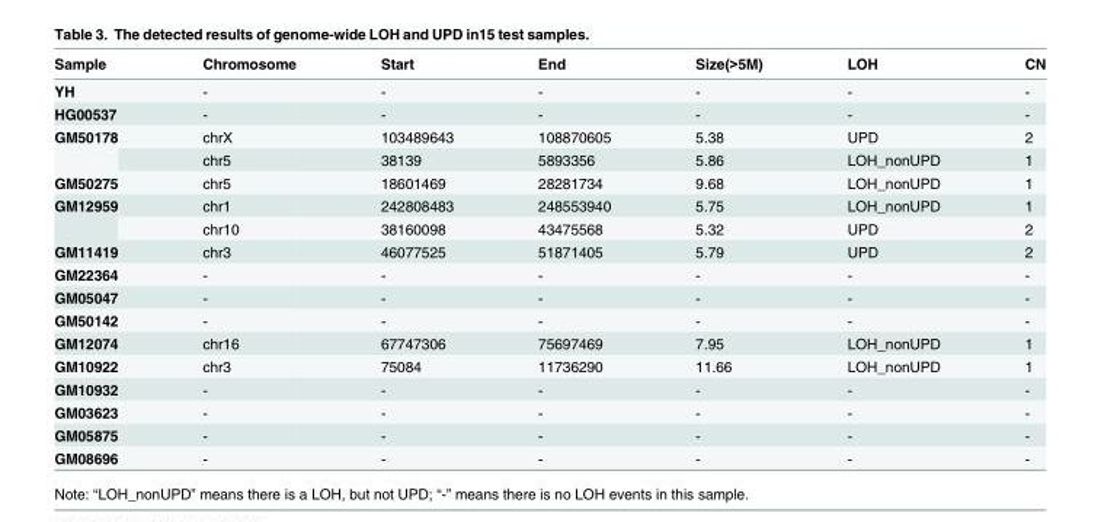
<table><thead><tr><td>Sample</td><td>Chromosome</td><td>Start</td><td>End</td><td>Size(&gt;5M)</td><td>LOH</td><td>CN</td></tr></thead><tbody><tr><td>YH</td><td>-</td><td>-</td><td>-</td><td>-</td><td>-</td><td>-</td></tr><tr><td>HG00537</td><td>-</td><td>-</td><td>-</td><td>-</td><td>-</td><td>-</td></tr><tr><td rowspan="2">GM50178</td><td>chrX</td><td>103489643</td><td>108870605</td><td>5.38</td><td>UPD</td><td>2</td></tr><tr><td>chr5</td><td>38139</td><td>5893356</td><td>5.86</td><td>LOH_nonUPD</td><td>1</td></tr><tr><td>GM50275</td><td>chr5</td><td>18601469</td><td>28281734</td><td>9.68</td><td>LOH_nonUPD</td><td>1</td></tr><tr><td rowspan="2">GM12959</td><td>chr1</td><td>242808483</td><td>248553940</td><td>5.75</td><td>LOH_nonUPD</td><td>1</td></tr><tr><td>chr10</td><td>38160098</td><td>43475568</td><td>5.32</td><td>UPD</td><td>2</td></tr><tr><td>GM11419</td><td>chr3</td><td>46077525</td><td>51871405</td><td>5.79</td><td>UPD</td><td>2</td></tr><tr><td>GM22364</td><td>-</td><td>-</td><td>-</td><td>-</td><td>-</td><td>-</td></tr><tr><td>GM05047</td><td>-</td><td>-</td><td>-</td><td>-</td><td>-</td><td>-</td></tr><tr><td>GM50142</td><td>-</td><td>-</td><td>-</td><td>-</td><td>-</td><td>-</td></tr><tr><td>GM12074</td><td>chr16</td><td>67747306</td><td>75697469</td><td>7.95</td><td>LOH_nonUPD</td><td>1</td></tr><tr><td>GM10922</td><td>chr3</td><td>75084</td><td>11736290</td><td>11.66</td><td>LOH_nonUPD</td><td>1</td></tr><tr><td>GM10932</td><td>-</td><td>-</td><td>-</td><td>-</td><td>-</td><td>-</td></tr><tr><td>GM03623</td><td>-</td><td>-</td><td>-</td><td>-</td><td>-</td><td>-</td></tr><tr><td>GM05875</td><td>-</td><td>-</td><td>-</td><td>-</td><td>-</td><td>-</td></tr><tr><td>GM08696</td><td>-</td><td>-</td><td>-</td><td>-</td><td>-</td><td>-</td></tr></tbody></table>